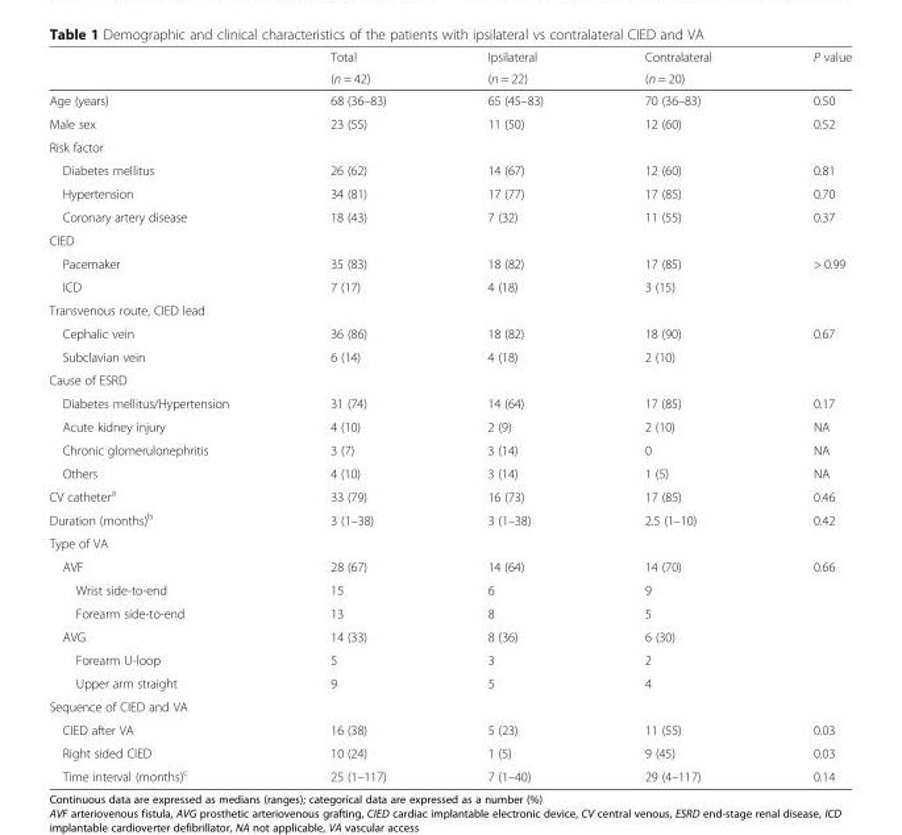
<table><thead><tr><td rowspan="2"></td><td rowspan="2">Total (n = 42)</td><td rowspan="2">Ipsilateral (n = 22)</td><td rowspan="2">Contralateral (n = 20)</td><td rowspan="2">P value</td></tr><tr></tr></thead><tbody><tr><td>Age (years)</td><td>68 (36–83)</td><td>65 (45–83)</td><td>70 (36–83)</td><td>0.50</td></tr><tr><td>Male sex</td><td>23 (55)</td><td>11 (50)</td><td>12 (60)</td><td>0.52</td></tr><tr><td colspan="5">Risk factor</td></tr><tr><td>Diabetes mellitus</td><td>26 (62)</td><td>14 (67)</td><td>12 (60)</td><td>0.81</td></tr><tr><td>Hypertension</td><td>34 (81)</td><td>17 (77)</td><td>17 (85)</td><td>0.70</td></tr><tr><td>Coronary artery disease</td><td>18 (43)</td><td>7 (32)</td><td>11 (55)</td><td>0.37</td></tr><tr><td colspan="5">CIED</td></tr><tr><td>Pacemaker</td><td>35 (83)</td><td>18 (82)</td><td>17 (85)</td><td>&gt; 0.99</td></tr><tr><td>ICD</td><td>7 (17)</td><td>4 (18)</td><td>3 (15)</td><td></td></tr><tr><td colspan="5">Transvenous route, CIED lead</td></tr><tr><td>Cephalic vein</td><td>36 (86)</td><td>18 (82)</td><td>18 (90)</td><td>0.67</td></tr><tr><td>Subclavian vein</td><td>6 (14)</td><td>4 (18)</td><td>2 (10)</td><td></td></tr><tr><td colspan="5">Cause of ESRD</td></tr><tr><td>Diabetes mellitus/Hypertension</td><td>31 (74)</td><td>14 (64)</td><td>17 (85)</td><td>0.17</td></tr><tr><td>Acute kidney injury</td><td>4 (10)</td><td>2 (9)</td><td>2 (10)</td><td>NA</td></tr><tr><td>Chronic glomerulonephritis</td><td>3 (7)</td><td>3 (14)</td><td>0</td><td>NA</td></tr><tr><td>Others</td><td>4 (10)</td><td>3 (14)</td><td>1 (5)</td><td>NA</td></tr><tr><td>CV catheter<sup>a</sup></td><td>33 (79)</td><td>16 (73)</td><td>17 (85)</td><td>0.46</td></tr><tr><td>Duration (months)<sup>b</sup></td><td>3 (1–38)</td><td>3 (1–38)</td><td>2.5 (1–10)</td><td>0.42</td></tr><tr><td colspan="5">Type of VA</td></tr><tr><td>AVF</td><td>28 (67)</td><td>14 (64)</td><td>14 (70)</td><td>0.66</td></tr><tr><td>Wrist side-to-end</td><td>15</td><td>6</td><td>9</td><td></td></tr><tr><td>Forearm side-to-end</td><td>13</td><td>8</td><td>5</td><td></td></tr><tr><td>AVG</td><td>14 (33)</td><td>8 (36)</td><td>6 (30)</td><td></td></tr><tr><td>Forearm U-loop</td><td>5</td><td>3</td><td>2</td><td></td></tr><tr><td>Upper arm straight</td><td>9</td><td>5</td><td>4</td><td></td></tr><tr><td colspan="5">Sequence of CIED and VA</td></tr><tr><td>CIED after VA</td><td>16 (38)</td><td>5 (23)</td><td>11 (55)</td><td>0.03</td></tr><tr><td>Right sided CIED</td><td>10 (24)</td><td>1 (5)</td><td>9 (45)</td><td>0.03</td></tr><tr><td>Time interval (months)<sup>c</sup></td><td>25 (1–117)</td><td>7 (1–40)</td><td>29 (4–117)</td><td>0.14</td></tr></tbody></table>